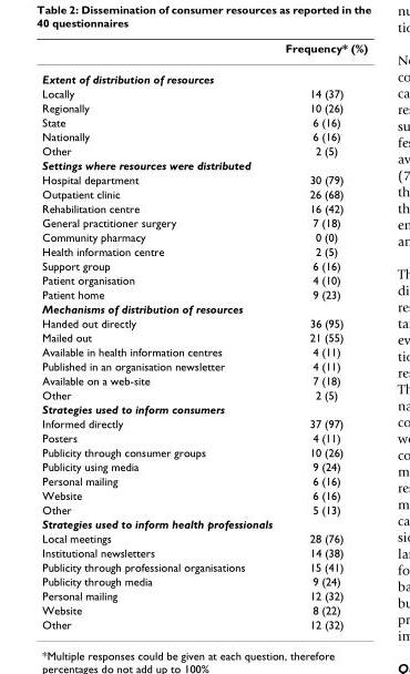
<table><thead><tr><td></td><td>Frequency* (%)</td></tr></thead><tbody><tr><td colspan="2">Extent of distribution of resources</td></tr><tr><td>Locally</td><td>14 (37)</td></tr><tr><td>Regionally</td><td>10 (26)</td></tr><tr><td>State</td><td>6 (16)</td></tr><tr><td>Nationally</td><td>6 (16)</td></tr><tr><td>Other</td><td>2 (5)</td></tr><tr><td colspan="2">Settings where resources were distributed</td></tr><tr><td>Hospital department</td><td>30 (79)</td></tr><tr><td>Outpatient clinic</td><td>26 (68)</td></tr><tr><td>Rehabilitation centre</td><td>16 (42)</td></tr><tr><td>General practitioner surgery</td><td>7 (18)</td></tr><tr><td>Community pharmacy</td><td>0 (0)</td></tr><tr><td>Health information centre</td><td>2 (5)</td></tr><tr><td>Support group</td><td>6 (16)</td></tr><tr><td>Patient organisation</td><td>4 (10)</td></tr><tr><td>Patient home</td><td>9 (23)</td></tr><tr><td colspan="2">Mechanisms of distribution of resources</td></tr><tr><td>Handed out directly</td><td>36 (95)</td></tr><tr><td>Mailed out</td><td>21 (55)</td></tr><tr><td>Available in health information centres</td><td>4 (11)</td></tr><tr><td>Published in an organisation newsletter</td><td>4 (11)</td></tr><tr><td>Available on a web-site</td><td>7 (18)</td></tr><tr><td>Other</td><td>2 (5)</td></tr><tr><td colspan="2">Strategies used to inform consumers</td></tr><tr><td>Informed directly</td><td>37 (97)</td></tr><tr><td>Posters</td><td>4 (11)</td></tr><tr><td>Publicity through consumer groups</td><td>10 (26)</td></tr><tr><td>Publicity using media</td><td>9 (24)</td></tr><tr><td>Personal mailing</td><td>6 (16)</td></tr><tr><td>Website</td><td>6 (16)</td></tr><tr><td>Other</td><td>5 (13)</td></tr><tr><td colspan="2">Strategies used to inform health professionals</td></tr><tr><td>Local meetings</td><td>28 (76)</td></tr><tr><td>Institutional newsletters</td><td>14 (38)</td></tr><tr><td>Publicity through professional organisations</td><td>15 (41)</td></tr><tr><td>Publicity through media</td><td>9 (24)</td></tr><tr><td>Personal mailing</td><td>12 (32)</td></tr><tr><td>Website</td><td>8 (22)</td></tr><tr><td>Other</td><td>12 (32)</td></tr></tbody></table>